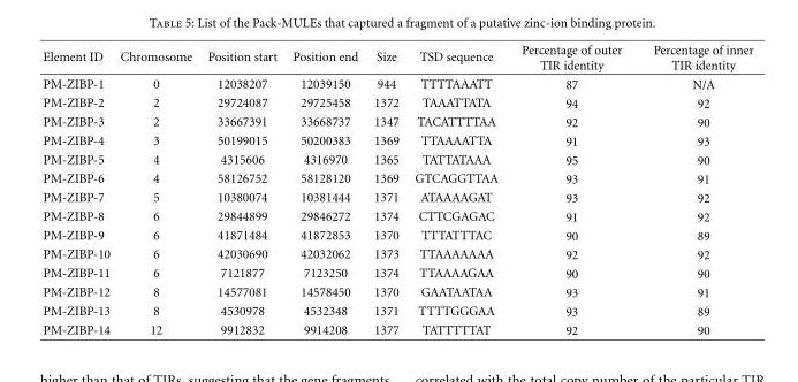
<table><thead><tr><td>Element ID</td><td>Chromosome</td><td>Position start</td><td>Position end</td><td>Size</td><td>TSD sequence</td><td>Percentage of outer TIR identity</td><td>Percentage of inner TIR identity</td></tr></thead><tbody><tr><td>PM-ZIBP-1</td><td>0</td><td>12038207</td><td>12039150</td><td>944</td><td>TTTTAAATT</td><td>87</td><td>N/A</td></tr><tr><td>PM-ZIBP-2</td><td>2</td><td>29724087</td><td>29725458</td><td>1372</td><td>TAAATTATA</td><td>94</td><td>92</td></tr><tr><td>PM-ZIBP-3</td><td>2</td><td>33667391</td><td>33668737</td><td>1347</td><td>TACATTTTAA</td><td>92</td><td>90</td></tr><tr><td>PM-ZIBP-4</td><td>3</td><td>50199015</td><td>50200383</td><td>1369</td><td>TTAAAATTA</td><td>91</td><td>93</td></tr><tr><td>PM-ZIBP-5</td><td>4</td><td>4315606</td><td>4316970</td><td>1365</td><td>TATTATAAA</td><td>95</td><td>90</td></tr><tr><td>PM-ZIBP-6</td><td>4</td><td>58126752</td><td>58128120</td><td>1369</td><td>GTCAGGTTAA</td><td>93</td><td>91</td></tr><tr><td>PM-ZIBP-7</td><td>5</td><td>10380074</td><td>10381444</td><td>1371</td><td>ATAAAAGAT</td><td>93</td><td>92</td></tr><tr><td>PM-ZIBP-8</td><td>6</td><td>29844899</td><td>29846272</td><td>1374</td><td>CTTCGAGAC</td><td>91</td><td>92</td></tr><tr><td>PM-ZIBP-9</td><td>6</td><td>41871484</td><td>41872853</td><td>1370</td><td>TTTATTTAC</td><td>90</td><td>89</td></tr><tr><td>PM-ZIBP-10</td><td>6</td><td>42030690</td><td>42032062</td><td>1373</td><td>TTAAAAAAA</td><td>92</td><td>92</td></tr><tr><td>PM-ZIBP-11</td><td>6</td><td>7121877</td><td>7123250</td><td>1374</td><td>TTAAAAGAA</td><td>90</td><td>90</td></tr><tr><td>PM-ZIBP-12</td><td>8</td><td>14577081</td><td>14578450</td><td>1370</td><td>GAATAATAA</td><td>93</td><td>91</td></tr><tr><td>PM-ZIBP-13</td><td>8</td><td>4530978</td><td>4532348</td><td>1371</td><td>TTTTGGGAA</td><td>93</td><td>89</td></tr><tr><td>PM-ZIBP-14</td><td>12</td><td>9912832</td><td>9914208</td><td>1377</td><td>TATTTTTAT</td><td>92</td><td>90</td></tr></tbody></table>